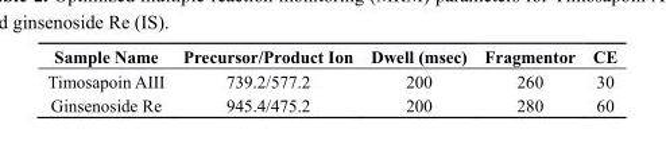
<table><thead><tr><td>Sample Name</td><td>Precursor/Product Ion</td><td>Dwell (msec)</td><td>Fragmentor</td><td>CE</td></tr></thead><tbody><tr><td>Timosapoin AIII</td><td>739.2/577.2</td><td>200</td><td>260</td><td>30</td></tr><tr><td>Ginsenoside Re</td><td>945.4/475.2</td><td>200</td><td>280</td><td>60</td></tr></tbody></table>